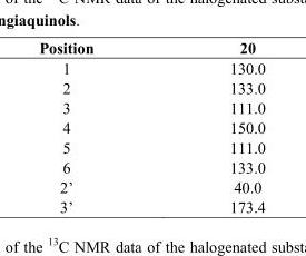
<table><thead><tr><td>Position</td><td>20</td></tr></thead><tbody><tr><td>1</td><td>130.0</td></tr><tr><td>2</td><td>133.0</td></tr><tr><td>3</td><td>111.0</td></tr><tr><td>4</td><td>150.0</td></tr><tr><td>5</td><td>111.0</td></tr><tr><td>6</td><td>133.0</td></tr><tr><td>2’</td><td>40.0</td></tr><tr><td>3’</td><td>173.4</td></tr></tbody></table>